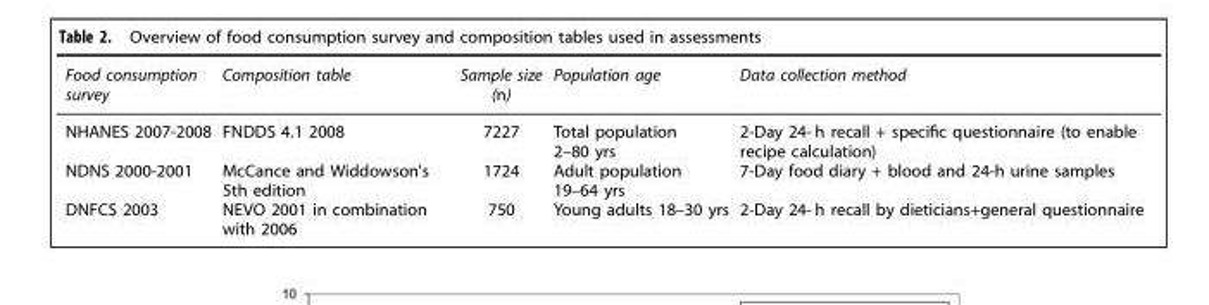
<table><thead><tr><td>Food consumption survey</td><td>Composition table</td><td>Sample size (n)</td><td>Population age</td><td>Data collection method</td></tr></thead><tbody><tr><td>NHANES 2007-2008</td><td>FNDDS 4.1 2008</td><td>7227</td><td>Total population 2–80 yrs</td><td>2-Day 24- h recall + specific questionnaire (to enable recipe calculation)</td></tr><tr><td>NDNS 2000-2001</td><td>McCance and Widdowson&#x27;s 5th edition</td><td>1724</td><td>Adult population 19–64 yrs</td><td>7-Day food diary + blood and 24-h urine samples</td></tr><tr><td>DNFCS 2003</td><td>NEVO 2001 in combination with 2006</td><td>750</td><td>Young adults 18–30 yrs</td><td>2-Day 24- h recall by dieticians+general questionnaire</td></tr></tbody></table>